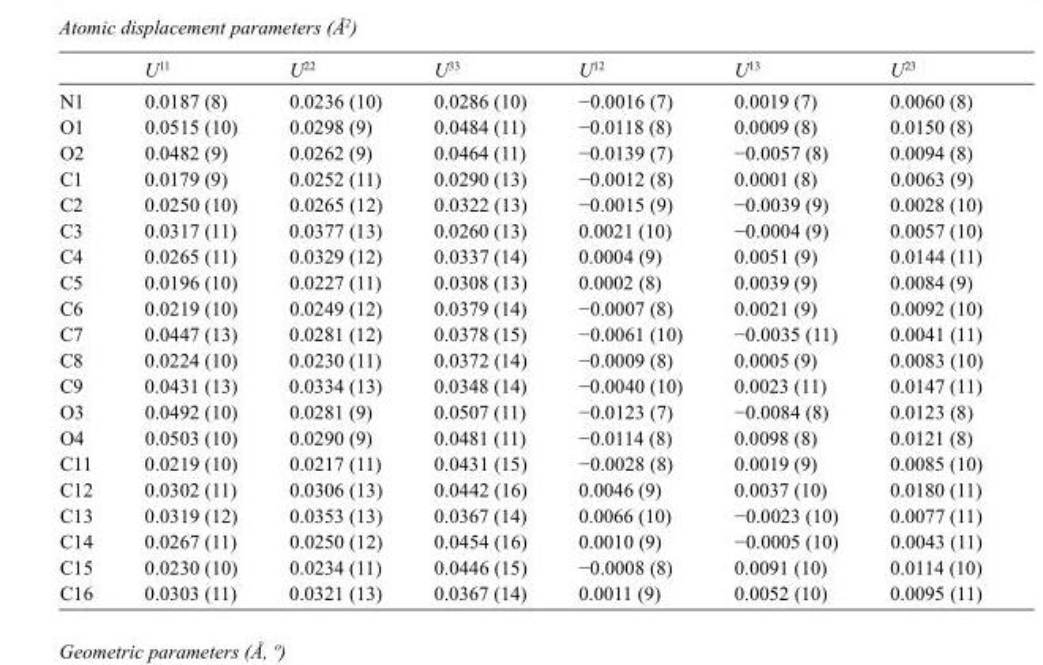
<table><thead><tr><td></td><td>U<sup>11</sup></td><td>U<sup>22</sup></td><td>U<sup>33</sup></td><td>U<sup>12</sup></td><td>U<sup>13</sup></td><td>U<sup>23</sup></td></tr></thead><tbody><tr><td>N1</td><td>0.0187 (8)</td><td>0.0236 (10)</td><td>0.0286 (10)</td><td>−0.0016 (7)</td><td>0.0019 (7)</td><td>0.0060 (8)</td></tr><tr><td>O1</td><td>0.0515 (10)</td><td>0.0298 (9)</td><td>0.0484 (11)</td><td>−0.0118 (8)</td><td>0.0009 (8)</td><td>0.0150 (8)</td></tr><tr><td>O2</td><td>0.0482 (9)</td><td>0.0262 (9)</td><td>0.0464 (11)</td><td>−0.0139 (7)</td><td>−0.0057 (8)</td><td>0.0094 (8)</td></tr><tr><td>C1</td><td>0.0179 (9)</td><td>0.0252 (11)</td><td>0.0290 (13)</td><td>−0.0012 (8)</td><td>0.0001 (8)</td><td>0.0063 (9)</td></tr><tr><td>C2</td><td>0.0250 (10)</td><td>0.0265 (12)</td><td>0.0322 (13)</td><td>−0.0015 (9)</td><td>−0.0039 (9)</td><td>0.0028 (10)</td></tr><tr><td>C3</td><td>0.0317 (11)</td><td>0.0377 (13)</td><td>0.0260 (13)</td><td>0.0021 (10)</td><td>−0.0004 (9)</td><td>0.0057 (10)</td></tr><tr><td>C4</td><td>0.0265 (11)</td><td>0.0329 (12)</td><td>0.0337 (14)</td><td>0.0004 (9)</td><td>0.0051 (9)</td><td>0.0144 (11)</td></tr><tr><td>C5</td><td>0.0196 (10)</td><td>0.0227 (11)</td><td>0.0308 (13)</td><td>0.0002 (8)</td><td>0.0039 (9)</td><td>0.0084 (9)</td></tr><tr><td>C6</td><td>0.0219 (10)</td><td>0.0249 (12)</td><td>0.0379 (14)</td><td>−0.0007 (8)</td><td>0.0021 (9)</td><td>0.0092 (10)</td></tr><tr><td>C7</td><td>0.0447 (13)</td><td>0.0281 (12)</td><td>0.0378 (15)</td><td>−0.0061 (10)</td><td>−0.0035 (11)</td><td>0.0041 (11)</td></tr><tr><td>C8</td><td>0.0224 (10)</td><td>0.0230 (11)</td><td>0.0372 (14)</td><td>−0.0009 (8)</td><td>0.0005 (9)</td><td>0.0083 (10)</td></tr><tr><td>C9</td><td>0.0431 (13)</td><td>0.0334 (13)</td><td>0.0348 (14)</td><td>−0.0040 (10)</td><td>0.0023 (11)</td><td>0.0147 (11)</td></tr><tr><td>O3</td><td>0.0492 (10)</td><td>0.0281 (9)</td><td>0.0507 (11)</td><td>−0.0123 (7)</td><td>−0.0084 (8)</td><td>0.0123 (8)</td></tr><tr><td>O4</td><td>0.0503 (10)</td><td>0.0290 (9)</td><td>0.0481 (11)</td><td>−0.0114 (8)</td><td>0.0098 (8)</td><td>0.0121 (8)</td></tr><tr><td>C11</td><td>0.0219 (10)</td><td>0.0217 (11)</td><td>0.0431 (15)</td><td>−0.0028 (8)</td><td>0.0019 (9)</td><td>0.0085 (10)</td></tr><tr><td>C12</td><td>0.0302 (11)</td><td>0.0306 (13)</td><td>0.0442 (16)</td><td>0.0046 (9)</td><td>0.0037 (10)</td><td>0.0180 (11)</td></tr><tr><td>C13</td><td>0.0319 (12)</td><td>0.0353 (13)</td><td>0.0367 (14)</td><td>0.0066 (10)</td><td>−0.0023 (10)</td><td>0.0077 (11)</td></tr><tr><td>C14</td><td>0.0267 (11)</td><td>0.0250 (12)</td><td>0.0454 (16)</td><td>0.0010 (9)</td><td>−0.0005 (10)</td><td>0.0043 (11)</td></tr><tr><td>C15</td><td>0.0230 (10)</td><td>0.0234 (11)</td><td>0.0446 (15)</td><td>−0.0008 (8)</td><td>0.0091 (10)</td><td>0.0114 (10)</td></tr><tr><td>C16</td><td>0.0303 (11)</td><td>0.0321 (13)</td><td>0.0367 (14)</td><td>0.0011 (9)</td><td>0.0052 (10)</td><td>0.0095 (11)</td></tr></tbody></table>